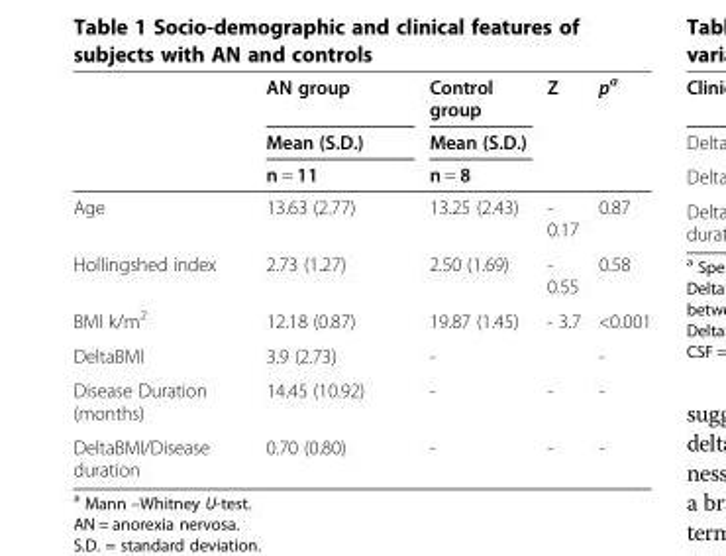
<table><thead><tr><td rowspan="3"></td><td rowspan="3">AN group Mean (S.D.) n = 11</td><td rowspan="3">Control group Mean (S.D.) n = 8</td><td rowspan="3">Z</td><td rowspan="3">p<sup>a</sup></td></tr><tr></tr><tr></tr></thead><tbody><tr><td>Age</td><td>13.63 (2.77)</td><td>13.25 (2.43)</td><td>- 0.17</td><td>0.87</td></tr><tr><td>Hollingshed index</td><td>2.73 (1.27)</td><td>2.50 (1.69)</td><td>- 0.55</td><td>0.58</td></tr><tr><td>BMI k/m<sup>2</sup></td><td>12.18 (0.87)</td><td>19.87 (1.45)</td><td>- 3.7</td><td>&lt;0.001</td></tr><tr><td>DeltaBMI</td><td>3.9 (2.73)</td><td>-</td><td></td><td>-</td></tr><tr><td>Disease Duration (months)</td><td>14.45 (10.92)</td><td>-</td><td>-</td><td>-</td></tr><tr><td>DeltaBMI/Disease duration</td><td>0.70 (0.80)</td><td>-</td><td>-</td><td>-</td></tr></tbody></table>